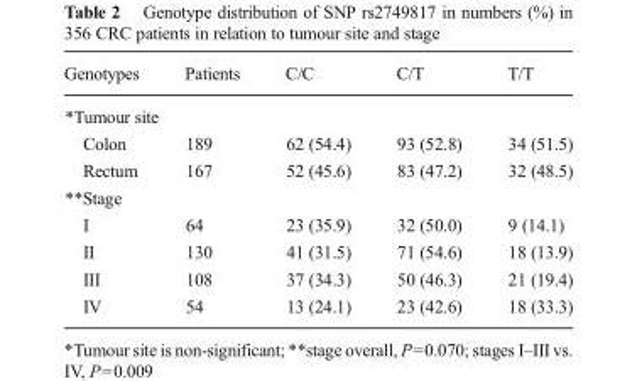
<table><thead><tr><td>Genotypes</td><td>Patients</td><td>C/C</td><td>C/T</td><td>T/T</td></tr></thead><tbody><tr><td colspan="5">*Tumour site</td></tr><tr><td>Colon</td><td>189</td><td>62 (54.4)</td><td>93 (52.8)</td><td>34 (51.5)</td></tr><tr><td>Rectum</td><td>167</td><td>52 (45.6)</td><td>83 (47.2)</td><td>32 (48.5)</td></tr><tr><td colspan="5">**Stage</td></tr><tr><td>I</td><td>64</td><td>23 (35.9)</td><td>32 (50.0)</td><td>9 (14.1)</td></tr><tr><td>II</td><td>130</td><td>41 (31.5)</td><td>71 (54.6)</td><td>18 (13.9)</td></tr><tr><td>III</td><td>108</td><td>37 (34.3)</td><td>50 (46.3)</td><td>21 (19.4)</td></tr><tr><td>IV</td><td>54</td><td>13 (24.1)</td><td>23 (42.6)</td><td>18 (33.3)</td></tr></tbody></table>